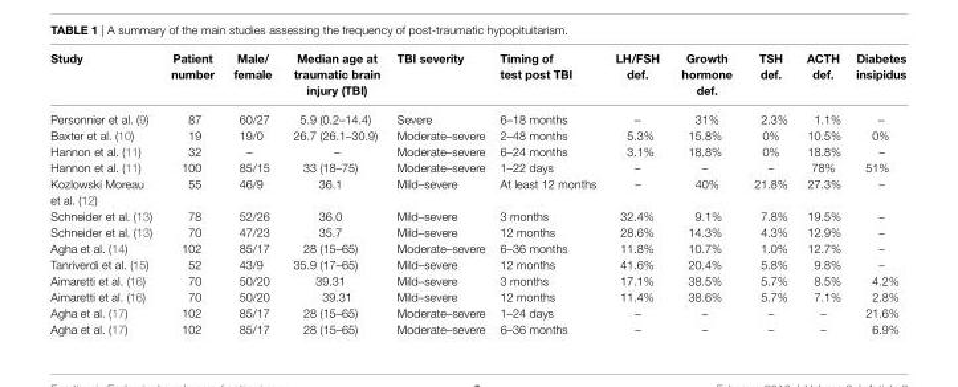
<table><thead><tr><td>Study</td><td>Patient number</td><td>Male/ female</td><td>Median age at traumatic brain injury (TBi)</td><td>TBi severity</td><td>Timing of test post TBi</td><td>lH/FSH def.</td><td>Growth hormone def.</td><td>TSH def.</td><td>ACTH def.</td><td>Diabetes insipidus</td></tr></thead><tbody><tr><td>Personnier et al. (9)</td><td>87</td><td>60/27</td><td>5.9 (0.2–14.4)</td><td>Severe</td><td>6–18 months</td><td>–</td><td>31%</td><td>2.3%</td><td>1.1%</td><td>–</td></tr><tr><td>Baxter et al. (10)</td><td>19</td><td>19/0</td><td>26.7 (26.1–30.9)</td><td>Moderate–severe</td><td>2–48 months</td><td>5.3%</td><td>15.8%</td><td>0%</td><td>10.5%</td><td>0%</td></tr><tr><td>Hannon et al. (11)</td><td>32</td><td>–</td><td>–</td><td>Moderate–severe</td><td>6–24 months</td><td>3.1%</td><td>18.8%</td><td>0%</td><td>18.8%</td><td>–</td></tr><tr><td>Hannon et al. (11)</td><td>100</td><td>85/15</td><td>33 (18–75)</td><td>Moderate–severe</td><td>1–22 days</td><td>–</td><td>–</td><td>–</td><td>78%</td><td>51%</td></tr><tr><td>Kozlowski Moreau et al. (12)</td><td>55</td><td>46/9</td><td>36.1</td><td>Mild–severe</td><td>At least 12 months</td><td>–</td><td>40%</td><td>21.8%</td><td>27.3%</td><td>–</td></tr><tr><td>Schneider et al. (13)</td><td>78</td><td>52/26</td><td>36.0</td><td>Mild–severe</td><td>3 months</td><td>32.4%</td><td>9.1%</td><td>7.8%</td><td>19.5%</td><td>–</td></tr><tr><td>Schneider et al. (13)</td><td>70</td><td>47/23</td><td>35.7</td><td>Mild–severe</td><td>12 months</td><td>28.6%</td><td>14.3%</td><td>4.3%</td><td>12.9%</td><td>–</td></tr><tr><td>Agha et al. (14)</td><td>102</td><td>85/17</td><td>28 (15–65)</td><td>Moderate–severe</td><td>6–36 months</td><td>11.8%</td><td>10.7%</td><td>1.0%</td><td>12.7%</td><td>–</td></tr><tr><td>Tanriverdi et al. (15)</td><td>52</td><td>43/9</td><td>35.9 (17–65)</td><td>Mild–severe</td><td>12 months</td><td>41.6%</td><td>20.4%</td><td>5.8%</td><td>9.8%</td><td>–</td></tr><tr><td>Aimaretti et al. (16)</td><td>70</td><td>50/20</td><td>39.31</td><td>Mild–severe</td><td>3 months</td><td>17.1%</td><td>38.5%</td><td>5.7%</td><td>8.5%</td><td>4.2%</td></tr><tr><td>Aimaretti et al. (16)</td><td>70</td><td>50/20</td><td>39.31</td><td>Mild–severe</td><td>12 months</td><td>11.4%</td><td>38.6%</td><td>5.7%</td><td>7.1%</td><td>2.8%</td></tr><tr><td>Agha et al. (17)</td><td>102</td><td>85/17</td><td>28 (15–65)</td><td>Moderate–severe</td><td>1–24 days</td><td>–</td><td>–</td><td>–</td><td>–</td><td>21.6%</td></tr><tr><td>Agha et al. (17)</td><td>102</td><td>85/17</td><td>28 (15–65)</td><td>Moderate–severe</td><td>6–36 months</td><td>–</td><td>–</td><td>–</td><td>–</td><td>6.9%</td></tr></tbody></table>